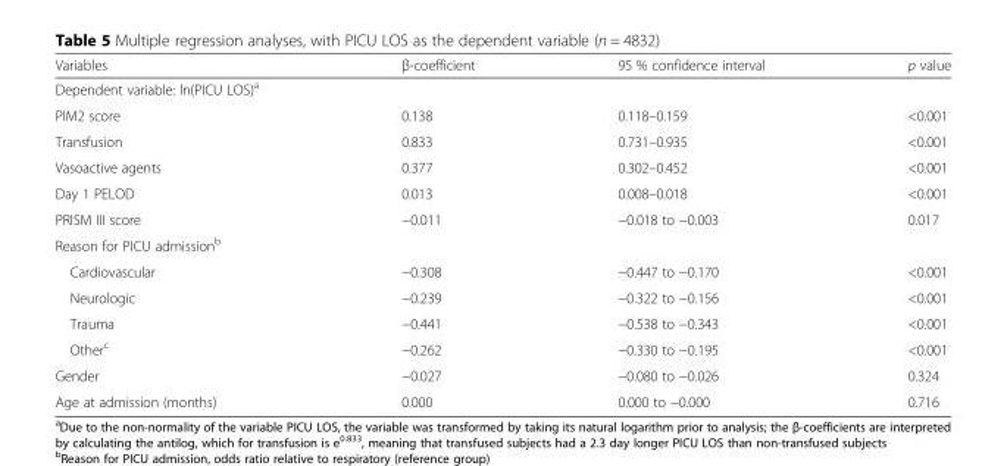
<table><thead><tr><td>Variables</td><td>β-coefficient</td><td>95 % confidence interval</td><td>p value</td></tr></thead><tbody><tr><td colspan="4">Dependent variable: ln(PICU LOS)<sup>a</sup></td></tr><tr><td>PIM2 score</td><td>0.138</td><td>0.118–0.159</td><td>&lt;0.001</td></tr><tr><td>Transfusion</td><td>0.833</td><td>0.731–0.935</td><td>&lt;0.001</td></tr><tr><td>Vasoactive agents</td><td>0.377</td><td>0.302–0.452</td><td>&lt;0.001</td></tr><tr><td>Day 1 PELOD</td><td>0.013</td><td>0.008–0.018</td><td>&lt;0.001</td></tr><tr><td>PRISM III score</td><td>−0.011</td><td>−0.018 to −0.003</td><td>0.017</td></tr><tr><td colspan="4">Reason for PICU admission<sup>b</sup></td></tr><tr><td>Cardiovascular</td><td>−0.308</td><td>−0.447 to −0.170</td><td>&lt;0.001</td></tr><tr><td>Neurologic</td><td>−0.239</td><td>−0.322 to −0.156</td><td>&lt;0.001</td></tr><tr><td>Trauma</td><td>−0.441</td><td>−0.538 to −0.343</td><td>&lt;0.001</td></tr><tr><td>Other<sup>c</sup></td><td>−0.262</td><td>−0.330 to −0.195</td><td>&lt;0.001</td></tr><tr><td>Gender</td><td>−0.027</td><td>−0.080 to −0.026</td><td>0.324</td></tr><tr><td>Age at admission (months)</td><td>0.000</td><td>0.000 to −0.000</td><td>0.716</td></tr></tbody></table>